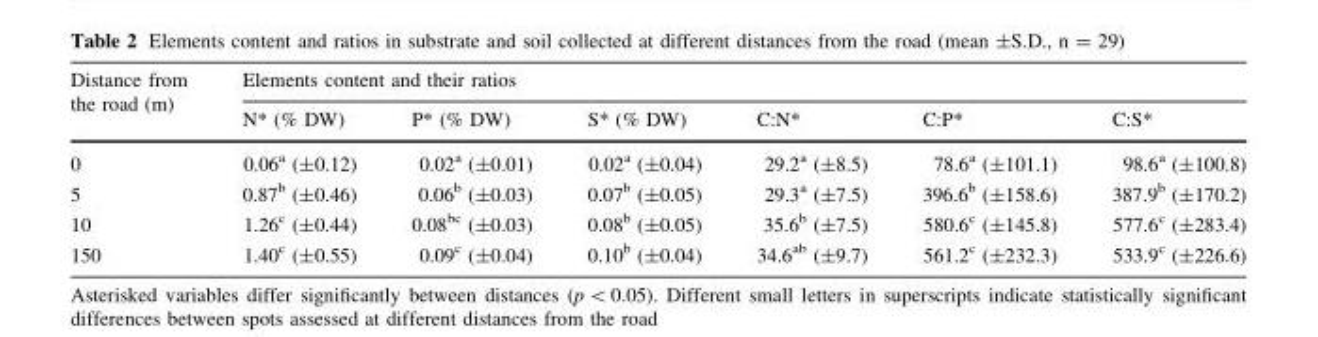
<table><thead><tr><td rowspan="2">Distance from the road (m)</td><td colspan="6">Elements content and their ratios</td></tr><tr><td>N* (% DW)</td><td>P* (% DW)</td><td>S* (% DW)</td><td>C:N*</td><td>C:P*</td><td>C:S*</td></tr></thead><tbody><tr><td>0</td><td>0.06<sup>a</sup> (±0.12)</td><td>0.02<sup>a</sup> (±0.01)</td><td>0.02<sup>a</sup> (±0.04)</td><td>29.2<sup>a</sup> (±8.5)</td><td>78.6<sup>a</sup> (±101.1)</td><td>98.6<sup>a</sup> (±100.8)</td></tr><tr><td>5</td><td>0.87<sup>b</sup> (±0.46)</td><td>0.06<sup>b</sup> (±0.03)</td><td>0.07<sup>b</sup> (±0.05)</td><td>29.3<sup>a</sup> (±7.5)</td><td>396.6<sup>b</sup> (±158.6)</td><td>387.9<sup>b</sup> (±170.2)</td></tr><tr><td>10</td><td>1.26<sup>c</sup> (±0.44)</td><td>0.08<sup>bc</sup> (±0.03)</td><td>0.08<sup>b</sup> (±0.05)</td><td>35.6<sup>b</sup> (±7.5)</td><td>580.6<sup>c</sup> (±145.8)</td><td>577.6<sup>c</sup> (±283.4)</td></tr><tr><td>150</td><td>1.40<sup>c</sup> (±0.55)</td><td>0.09<sup>c</sup> (±0.04)</td><td>0.10<sup>b</sup> (±0.04)</td><td>34.6<sup>ab</sup> (±9.7)</td><td>561.2<sup>c</sup> (±232.3)</td><td>533.9<sup>c</sup> (±226.6)</td></tr></tbody></table>